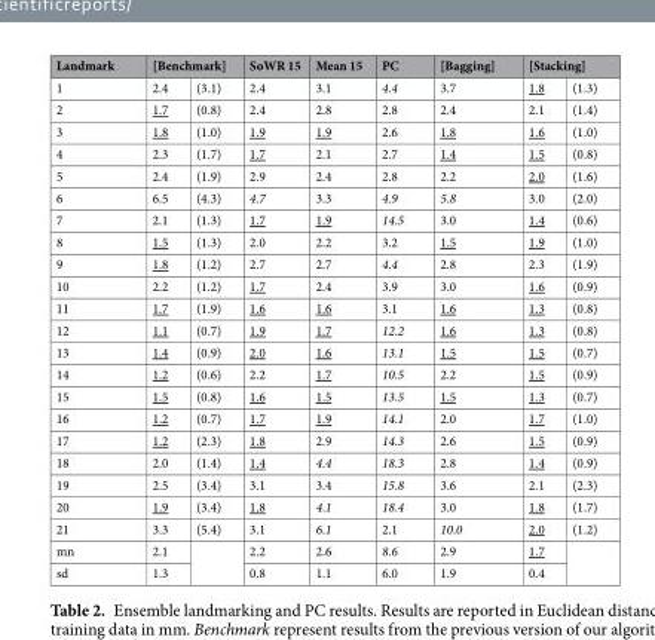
<table><thead><tr><td rowspan="2">Landmark 1</td><td colspan="2">[Benchmark]</td><td rowspan="2">SoWR 15 2.4</td><td rowspan="2">Mean 15 3.1</td><td rowspan="2">PC 4.4</td><td rowspan="2">[Bagging] 3.7</td><td colspan="2">[Stacking]</td></tr><tr><td>2.4</td><td>(3.1)</td><td>1.8</td><td>(1.3)</td></tr></thead><tbody><tr><td>2</td><td>1.7</td><td>(0.8)</td><td>2.4</td><td>2.8</td><td>2.8</td><td>2.4</td><td>2.1</td><td>(1.4)</td></tr><tr><td>3</td><td>1.8</td><td>(1.0)</td><td>1.9</td><td>1.9</td><td>2.6</td><td>1.8</td><td>1.6</td><td>(1.0)</td></tr><tr><td>4</td><td>2.3</td><td>(1.7)</td><td>1.7</td><td>2.1</td><td>2.7</td><td>1.4</td><td>1.5</td><td>(0.8)</td></tr><tr><td>5</td><td>2.4</td><td>(1.9)</td><td>2.9</td><td>2.4</td><td>2.8</td><td>2.2</td><td>2.0</td><td>(1.6)</td></tr><tr><td>6</td><td>6.5</td><td>(4.3)</td><td>4.7</td><td>3.3</td><td>4.9</td><td>5.8</td><td>3.0</td><td>(2.0)</td></tr><tr><td>7</td><td>2.1</td><td>(1.3)</td><td>1.7</td><td>1.9</td><td>14.5</td><td>3.0</td><td>1.4</td><td>(0.6)</td></tr><tr><td>8</td><td>1.5</td><td>(1.3)</td><td>2.0</td><td>2.2</td><td>3.2</td><td>1.5</td><td>1.9</td><td>(1.0)</td></tr><tr><td>9</td><td>1.8</td><td>(1.2)</td><td>2.7</td><td>2.7</td><td>4.4</td><td>2.8</td><td>2.3</td><td>(1.9)</td></tr><tr><td>10</td><td>2.2</td><td>(1.2)</td><td>1.7</td><td>2.4</td><td>3.9</td><td>3.0</td><td>1.6</td><td>(0.9)</td></tr><tr><td>11</td><td>1.7</td><td>(1.9)</td><td>1.6</td><td>1.6</td><td>3.1</td><td>1.6</td><td>1.3</td><td>(0.8)</td></tr><tr><td>12</td><td>1.1</td><td>(0.7)</td><td>1.9</td><td>1.7</td><td>12.2</td><td>1.6</td><td>1.3</td><td>(0.8)</td></tr><tr><td>13</td><td>1.4</td><td>(0.9)</td><td>2.0</td><td>1.6</td><td>13.1</td><td>1.5</td><td>1.5</td><td>(0.7)</td></tr><tr><td>14</td><td>1.2</td><td>(0.6)</td><td>2.2</td><td>1.7</td><td>10.5</td><td>2.2</td><td>1.5</td><td>(0.9)</td></tr><tr><td>15</td><td>1.5</td><td>(0.8)</td><td>1.6</td><td>1.5</td><td>13.5</td><td>1.5</td><td>1.3</td><td>(0.7)</td></tr><tr><td>16</td><td>1.2</td><td>(0.7)</td><td>1.7</td><td>1.9</td><td>14.1</td><td>2.0</td><td>1.7</td><td>(1.0)</td></tr><tr><td>17</td><td>1.2</td><td>(2.3)</td><td>1.8</td><td>2.9</td><td>14.3</td><td>2.6</td><td>1.5</td><td>(0.9)</td></tr><tr><td>18</td><td>2.0</td><td>(1.4)</td><td>1.4</td><td>4.4</td><td>18.3</td><td>2.8</td><td>1.4</td><td>(0.9)</td></tr><tr><td>19</td><td>2.5</td><td>(3.4)</td><td>3.1</td><td>3.4</td><td>15.8</td><td>3.6</td><td>2.1</td><td>(2.3)</td></tr><tr><td>20</td><td>1.9</td><td>(3.4)</td><td>1.8</td><td>4.1</td><td>18.4</td><td>3.0</td><td>1.8</td><td>(1.7)</td></tr><tr><td>21</td><td>3.3</td><td>(5.4)</td><td>3.1</td><td>6.1</td><td>2.1</td><td>10.0</td><td>2.0</td><td>(1.2)</td></tr><tr><td>mn</td><td>2.1</td><td rowspan="2"></td><td>2.2</td><td>2.6</td><td>8.6</td><td>2.9</td><td>1.7</td><td rowspan="2"></td></tr><tr><td>sd</td><td>1.3</td><td>0.8</td><td>1.1</td><td>6.0</td><td>1.9</td><td>0.4</td></tr></tbody></table>